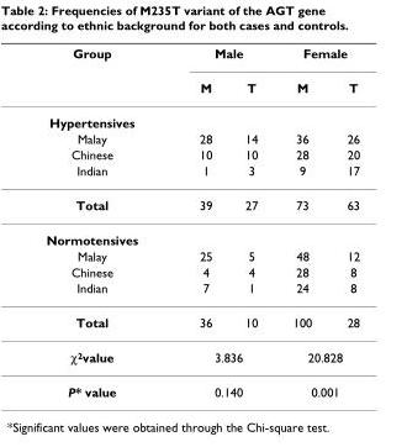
<table><thead><tr><td rowspan="2">Group</td><td colspan="2">Male</td><td colspan="2">Female</td></tr><tr><td>M</td><td>T</td><td>M</td><td>T</td></tr></thead><tbody><tr><td colspan="5">Hypertensives</td></tr><tr><td>Malay</td><td>28</td><td>14</td><td>36</td><td>26</td></tr><tr><td>Chinese</td><td>10</td><td>10</td><td>28</td><td>20</td></tr><tr><td>Indian</td><td>1</td><td>3</td><td>9</td><td>17</td></tr><tr><td>Total</td><td>39</td><td>27</td><td>73</td><td>63</td></tr><tr><td colspan="5">Normotensives</td></tr><tr><td>Malay</td><td>25</td><td>5</td><td>48</td><td>12</td></tr><tr><td>Chinese</td><td>4</td><td>4</td><td>28</td><td>8</td></tr><tr><td>Indian</td><td>7</td><td>1</td><td>24</td><td>8</td></tr><tr><td>Total</td><td>36</td><td>10</td><td>100</td><td>28</td></tr><tr><td>χ<sup>2</sup>value</td><td colspan="2">3.836</td><td colspan="2">20.828</td></tr><tr><td>P* value</td><td colspan="2">0.140</td><td colspan="2">0.001</td></tr></tbody></table>